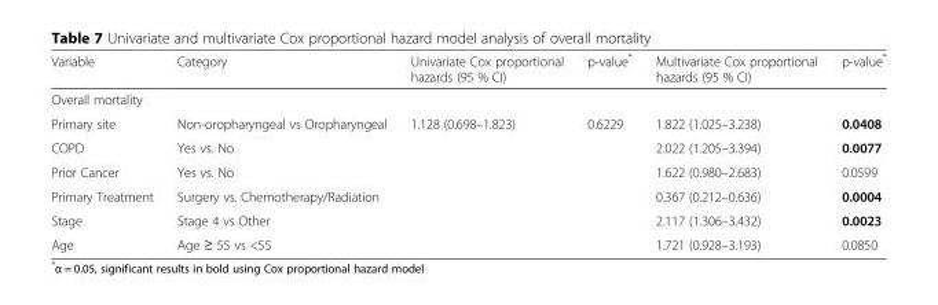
<table><thead><tr><td>Variable</td><td>Category</td><td>Univariate Cox proportional hazards (95 % CI)</td><td>p-value*</td><td>Multivariate Cox proportional hazards (95 % CI)</td><td>p-value*</td></tr></thead><tbody><tr><td colspan="6">Overall mortality</td></tr><tr><td>Primary site</td><td>Non-oropharyngeal vs Oropharyngeal</td><td>1.128 (0.698–1.823)</td><td>0.6229</td><td>1.822 (1.025–3.238)</td><td>0.0408</td></tr><tr><td>COPD</td><td>Yes vs. No</td><td></td><td></td><td>2.022 (1.205–3.394)</td><td>0.0077</td></tr><tr><td>Prior Cancer</td><td>Yes vs. No</td><td></td><td></td><td>1.622 (0.980–2.683)</td><td>0.0599</td></tr><tr><td>Primary Treatment</td><td>Surgery vs. Chemotherapy/Radiation</td><td></td><td></td><td>0.367 (0.212–0.636)</td><td>0.0004</td></tr><tr><td>Stage</td><td>Stage 4 vs Other</td><td></td><td></td><td>2.117 (1.306–3.432)</td><td>0.0023</td></tr><tr><td>Age</td><td>Age ≥ 55 vs &lt;55</td><td></td><td></td><td>1.721 (0.928–3.193)</td><td>0.0850</td></tr></tbody></table>